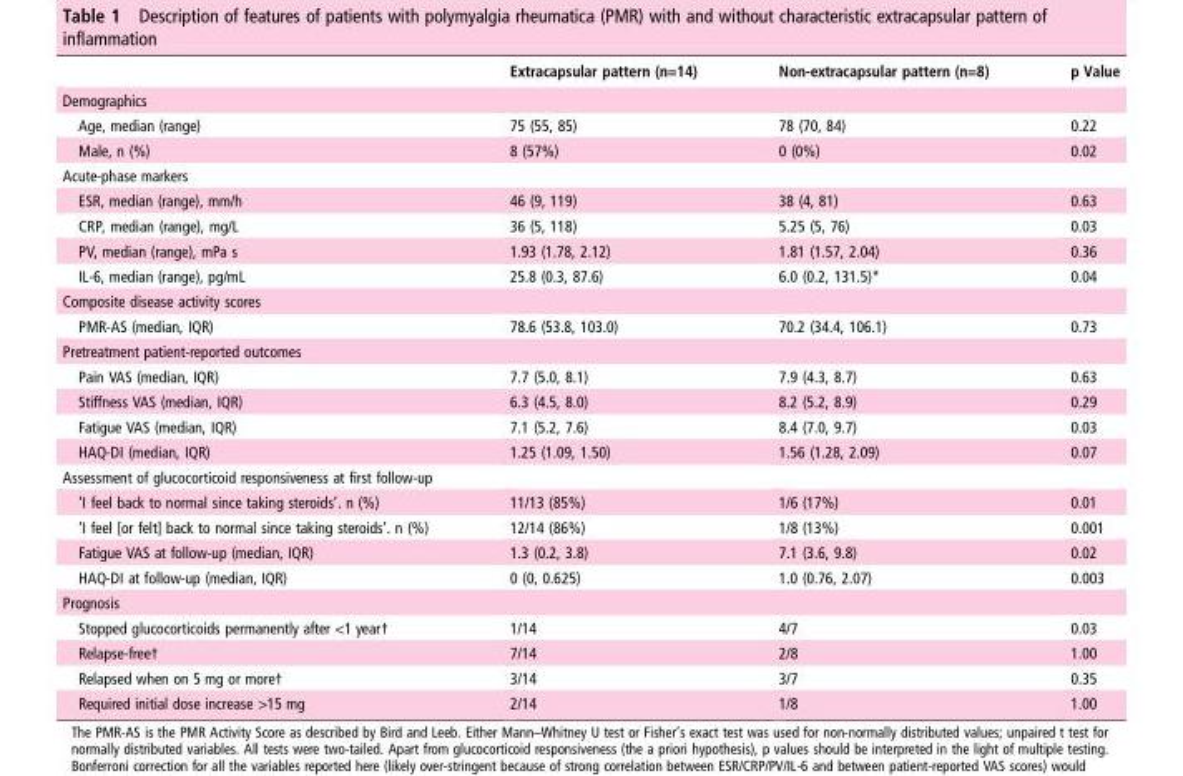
<table><thead><tr><td></td><td>Extracapsular pattern (n=14)</td><td>Non-extracapsular pattern (n=8)</td><td>p Value</td></tr></thead><tbody><tr><td colspan="4">Demographics</td></tr><tr><td>Age, median (range)</td><td>75 (55, 85)</td><td>78 (70, 84)</td><td>0.22</td></tr><tr><td>Male, n (%)</td><td>8 (57%)</td><td>0 (0%)</td><td>0.02</td></tr><tr><td colspan="4">Acute-phase markers</td></tr><tr><td>ESR, median (range), mm/h</td><td>46 (9, 119)</td><td>38 (4, 81)</td><td>0.63</td></tr><tr><td>CRP, median (range), mg/L</td><td>36 (5, 118)</td><td>5.25 (5, 76)</td><td>0.03</td></tr><tr><td>PV, median (range), mPa s</td><td>1.93 (1.78, 2.12)</td><td>1.81 (1.57, 2.04)</td><td>0.36</td></tr><tr><td>IL-6, median (range), pg/mL</td><td>25.8 (0.3, 87.6)</td><td>6.0 (0.2, 131.5)*</td><td>0.04</td></tr><tr><td colspan="4">Composite disease activity scores</td></tr><tr><td>PMR-AS (median, IQR)</td><td>78.6 (53.8, 103.0)</td><td>70.2 (34.4, 106.1)</td><td>0.73</td></tr><tr><td colspan="4">Pretreatment patient-reported outcomes</td></tr><tr><td>Pain VAS (median, IQR)</td><td>7.7 (5.0, 8.1)</td><td>7.9 (4.3, 8.7)</td><td>0.63</td></tr><tr><td>Stiffness VAS (median, IQR)</td><td>6.3 (4.5, 8.0)</td><td>8.2 (5.2, 8.9)</td><td>0.29</td></tr><tr><td>Fatigue VAS (median, IQR)</td><td>7.1 (5.2, 7.6)</td><td>8.4 (7.0, 9.7)</td><td>0.03</td></tr><tr><td>HAQ-DI (median, IQR)</td><td>1.25 (1.09, 1.50)</td><td>1.56 (1.28, 2.09)</td><td>0.07</td></tr><tr><td colspan="4">Assessment of glucocorticoid responsiveness at first follow-up</td></tr><tr><td>‘I feel back to normal since taking steroids’. n (%)</td><td>11/13 (85%)</td><td>1/6 (17%)</td><td>0.01</td></tr><tr><td>‘I feel [or felt] back to normal since taking steroids’. n (%)</td><td>12/14 (86%)</td><td>1/8 (13%)</td><td>0.001</td></tr><tr><td>Fatigue VAS at follow-up (median, IQR)</td><td>1.3 (0.2, 3.8)</td><td>7.1 (3.6, 9.8)</td><td>0.02</td></tr><tr><td>HAQ-DI at follow-up (median, IQR)</td><td>0 (0, 0.625)</td><td>1.0 (0.76, 2.07)</td><td>0.003</td></tr><tr><td colspan="4">Prognosis</td></tr><tr><td>Stopped glucocorticoids permanently after &lt;1 year†</td><td>1/14</td><td>4/7</td><td>0.03</td></tr><tr><td>Relapse-free†</td><td>7/14</td><td>2/8</td><td>1.00</td></tr><tr><td>Relapsed when on 5 mg or more†</td><td>3/14</td><td>3/7</td><td>0.35</td></tr><tr><td>Required initial dose increase &gt;15 mg</td><td>2/14</td><td>1/8</td><td>1.00</td></tr></tbody></table>